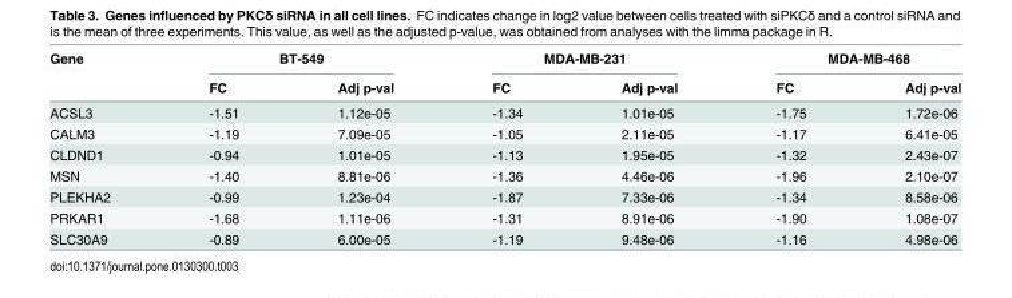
<table><thead><tr><td rowspan="2">Gene</td><td colspan="2">BT-549</td><td colspan="2">MDA-MB-231</td><td colspan="2">MDA-MB-468</td></tr><tr><td>FC</td><td>Adj p-val</td><td>FC</td><td>Adj p-val</td><td>FC</td><td>Adj p-val</td></tr></thead><tbody><tr><td>ACSL3</td><td>-1.51</td><td>1.12e-05</td><td>-1.34</td><td>1.01e-05</td><td>-1.75</td><td>1.72e-06</td></tr><tr><td>CALM3</td><td>-1.19</td><td>7.09e-05</td><td>-1.05</td><td>2.11e-05</td><td>-1.17</td><td>6.41e-05</td></tr><tr><td>CLDND1</td><td>-0.94</td><td>1.01e-05</td><td>-1.13</td><td>1.95e-05</td><td>-1.32</td><td>2.43e-07</td></tr><tr><td>MSN</td><td>-1.40</td><td>8.81e-06</td><td>-1.36</td><td>4.46e-06</td><td>-1.96</td><td>2.10e-07</td></tr><tr><td>PLEKHA2</td><td>-0.99</td><td>1.23e-04</td><td>-1.87</td><td>7.33e-06</td><td>-1.34</td><td>8.58e-06</td></tr><tr><td>PRKAR1</td><td>-1.68</td><td>1.11e-06</td><td>-1.31</td><td>8.91e-06</td><td>-1.90</td><td>1.08e-07</td></tr><tr><td>SLC30A9</td><td>-0.89</td><td>6.00e-05</td><td>-1.19</td><td>9.48e-06</td><td>-1.16</td><td>4.98e-06</td></tr></tbody></table>